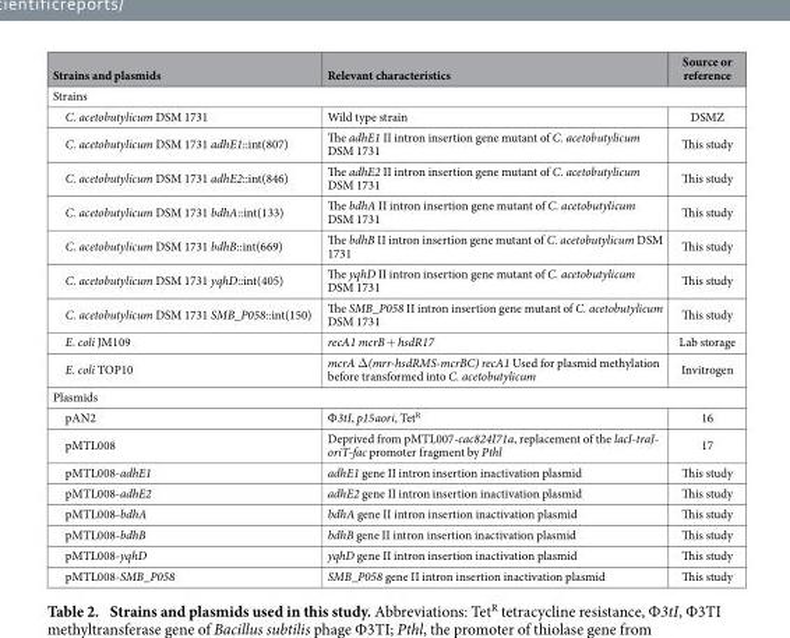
<table><thead><tr><td>Strains and plasmids</td><td>Relevant characteristics</td><td>Source or reference</td></tr></thead><tbody><tr><td colspan="3">Strains</td></tr><tr><td>C. acetobutylicum DSM 1731</td><td>Wild type strain</td><td>DSMZ</td></tr><tr><td>C. acetobutylicum DSM 1731 adhE1::int(807)</td><td>The adhE1 II intron insertion gene mutant of C. acetobutylicum DSM 1731</td><td>This study</td></tr><tr><td>C. acetobutylicum DSM 1731 adhE2::int(846)</td><td>The adhE2 II intron insertion gene mutant of C. acetobutylicum DSM 1731</td><td>This study</td></tr><tr><td>C. acetobutylicum DSM 1731 bdhA::int(133)</td><td>The bdhA II intron insertion gene mutant of C. acetobutylicum DSM 1731</td><td>This study</td></tr><tr><td>C. acetobutylicum DSM 1731 bdhB::int(669)</td><td>The bdhB II intron insertion gene mutant of C. acetobutylicum DSM 1731</td><td>This study</td></tr><tr><td>C. acetobutylicum DSM 1731 yqhD::int(405)</td><td>The yqhD II intron insertion gene mutant of C. acetobutylicum DSM 1731</td><td>This study</td></tr><tr><td>C. acetobutylicum DSM 1731 SMB_P058::int(150)</td><td>The SMB_P058 II intron insertion gene mutant of C. acetobutylicum DSM 1731</td><td>This study</td></tr><tr><td>E. coli JM109</td><td>recA1 mcrB + hsdR17</td><td>Lab storage</td></tr><tr><td>E. coli TOP10</td><td>mcrA Δ(mrr-hsdRMS-mcrBC) recA1 Used for plasmid methylation before transformed into C. acetobutylicum</td><td>Invitrogen</td></tr><tr><td colspan="3">Plasmids</td></tr><tr><td>pAN2</td><td>Ф3tI, p15aori, Tet<sup>R</sup></td><td>16</td></tr><tr><td>pMTL008</td><td>Deprived from pMTL007-cac824I71a, replacement of the lacI-traJ- oriT-fac promoter fragment by Pthl</td><td>17</td></tr><tr><td>pMTL008-adhE1</td><td>adhE1 gene II intron insertion inactivation plasmid</td><td>This study</td></tr><tr><td>pMTL008-adhE2</td><td>adhE2 gene II intron insertion inactivation plasmid</td><td>This study</td></tr><tr><td>pMTL008-bdhA</td><td>bdhA gene II intron insertion inactivation plasmid</td><td>This study</td></tr><tr><td>pMTL008-bdhB</td><td>bdhB gene II intron insertion inactivation plasmid</td><td>This study</td></tr><tr><td>pMTL008-yqhD</td><td>yqhD gene II intron insertion inactivation plasmid</td><td>This study</td></tr><tr><td>pMTL008-SMB_P058</td><td>SMB_P058 gene II intron insertion inactivation plasmid</td><td>This study</td></tr></tbody></table>